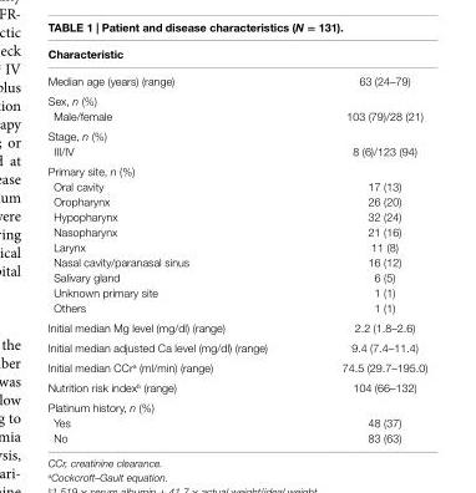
<table><thead><tr><td>characteristic</td><td></td></tr></thead><tbody><tr><td>Median age (years) (range)</td><td>63 (24–79)</td></tr><tr><td colspan="2">Sex, n (%)</td></tr><tr><td>Male/female</td><td>103 (79)/28 (21)</td></tr><tr><td colspan="2">Stage, n (%)</td></tr><tr><td>III/IV</td><td>8 (6)/123 (94)</td></tr><tr><td colspan="2">Primary site, n (%)</td></tr><tr><td>Oral cavity</td><td>17 (13)</td></tr><tr><td>Oropharynx</td><td>26 (20)</td></tr><tr><td>Hypopharynx</td><td>32 (24)</td></tr><tr><td>Nasopharynx</td><td>21 (16)</td></tr><tr><td>Larynx</td><td>11 (8)</td></tr><tr><td>Nasal cavity/paranasal sinus</td><td>16 (12)</td></tr><tr><td>Salivary gland</td><td>6 (5)</td></tr><tr><td>Unknown primary site</td><td>1 (1)</td></tr><tr><td>Others</td><td>1 (1)</td></tr><tr><td>Initial median Mg level (mg/dl) (range)</td><td>2.2 (1.8–2.6)</td></tr><tr><td>Initial median adjusted Ca level (mg/dl) (range)</td><td>9.4 (7.4–11.4)</td></tr><tr><td>Initial median CCr<sup>a</sup> (ml/min) (range)</td><td>74.5 (29.7–195.0)</td></tr><tr><td>Nutrition risk index<sup>b</sup> (range)</td><td>104 (66–132)</td></tr><tr><td colspan="2">Platinum history, n (%)</td></tr><tr><td>Yes</td><td>48 (37)</td></tr><tr><td>No</td><td>83 (63)</td></tr></tbody></table>